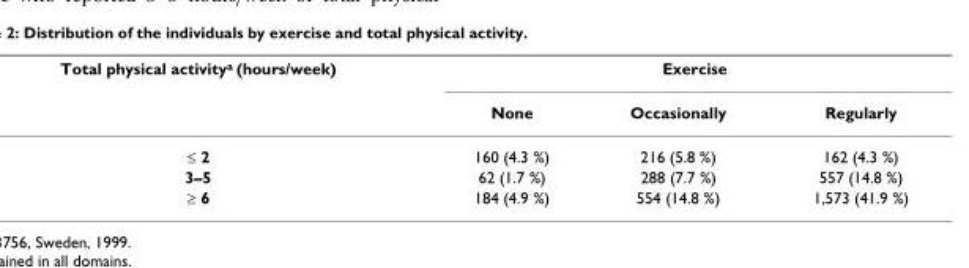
<table><thead><tr><td rowspan="2">Total physical activitya (hours/week)</td><td colspan="3">Exercise</td></tr><tr><td>None</td><td>Occasionally</td><td>Regularly</td></tr></thead><tbody><tr><td>≤ 2</td><td>160 (4.3 %)</td><td>216 (5.8 %)</td><td>162 (4.3 %)</td></tr><tr><td>3–5</td><td>62 (1.7 %)</td><td>288 (7.7 %)</td><td>557 (14.8 %)</td></tr><tr><td>≥ 6</td><td>184 (4.9 %)</td><td>554 (14.8 %)</td><td>1,573 (41.9 %)</td></tr></tbody></table>